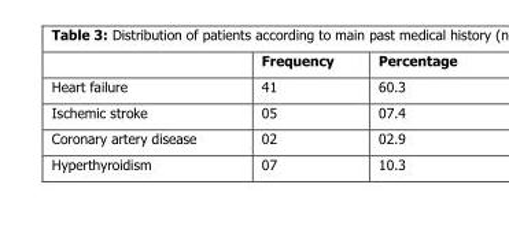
<table><thead><tr><td></td><td>Frequency</td><td>Percentage</td></tr></thead><tbody><tr><td>Heart failure</td><td>41</td><td>60.3</td></tr><tr><td>Ischemic stroke</td><td>05</td><td>07.4</td></tr><tr><td>Coronary artery disease</td><td>02</td><td>02.9</td></tr><tr><td>Hyperthyroidism</td><td>07</td><td>10.3</td></tr></tbody></table>